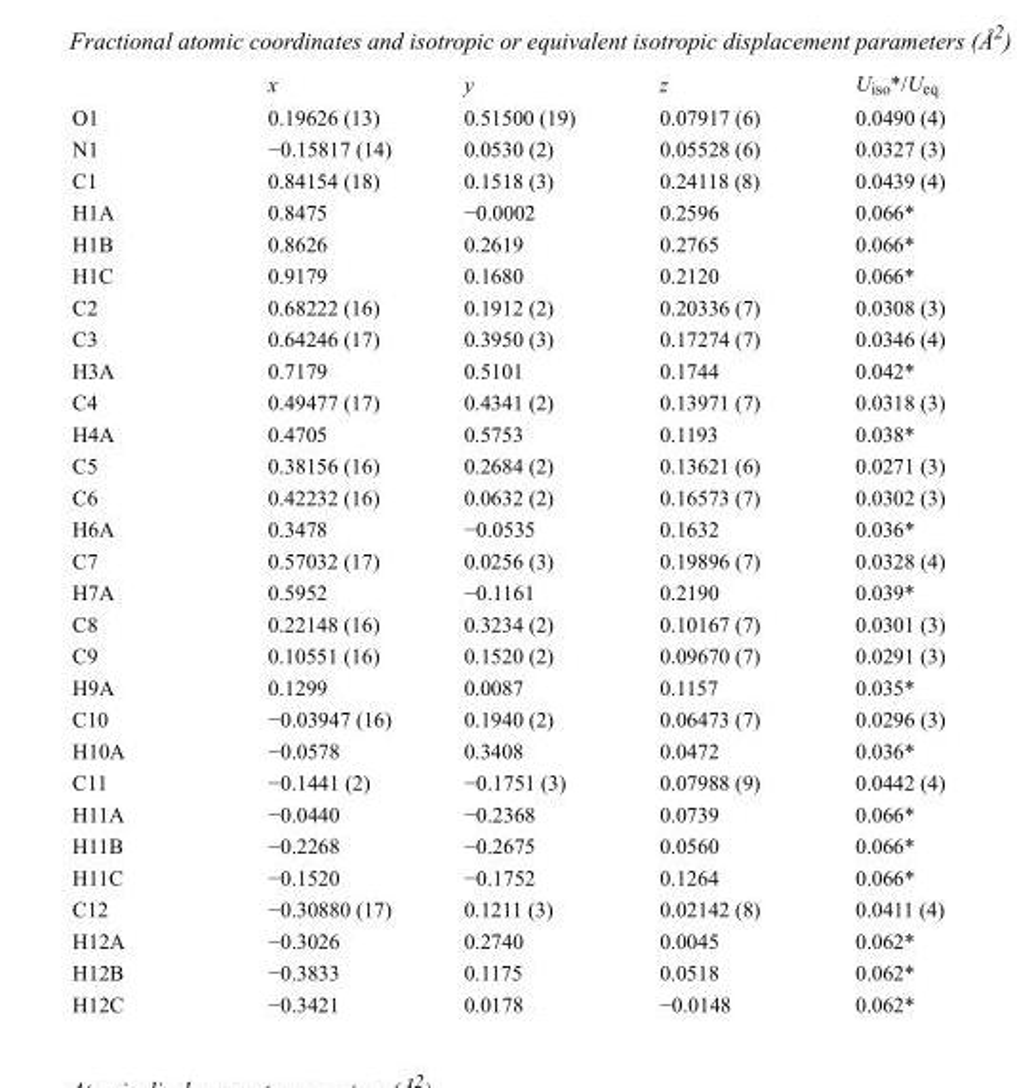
<table><thead><tr><td></td><td>x</td><td>y</td><td>z</td><td>U<sub>iso</sub>*/U<sub>eq</sub></td></tr></thead><tbody><tr><td>O1</td><td>0.19626 (13)</td><td>0.51500 (19)</td><td>0.07917 (6)</td><td>0.0490 (4)</td></tr><tr><td>N1</td><td>−0.15817 (14)</td><td>0.0530 (2)</td><td>0.05528 (6)</td><td>0.0327 (3)</td></tr><tr><td>C1</td><td>0.84154 (18)</td><td>0.1518 (3)</td><td>0.24118 (8)</td><td>0.0439 (4)</td></tr><tr><td>H1A</td><td>0.8475</td><td>−0.0002</td><td>0.2596</td><td>0.066*</td></tr><tr><td>H1B</td><td>0.8626</td><td>0.2619</td><td>0.2765</td><td>0.066*</td></tr><tr><td>H1C</td><td>0.9179</td><td>0.1680</td><td>0.2120</td><td>0.066*</td></tr><tr><td>C2</td><td>0.68222 (16)</td><td>0.1912 (2)</td><td>0.20336 (7)</td><td>0.0308 (3)</td></tr><tr><td>C3</td><td>0.64246 (17)</td><td>0.3950 (3)</td><td>0.17274 (7)</td><td>0.0346 (4)</td></tr><tr><td>H3A</td><td>0.7179</td><td>0.5101</td><td>0.1744</td><td>0.042*</td></tr><tr><td>C4</td><td>0.49477 (17)</td><td>0.4341 (2)</td><td>0.13971 (7)</td><td>0.0318 (3)</td></tr><tr><td>H4A</td><td>0.4705</td><td>0.5753</td><td>0.1193</td><td>0.038*</td></tr><tr><td>C5</td><td>0.38156 (16)</td><td>0.2684 (2)</td><td>0.13621 (6)</td><td>0.0271 (3)</td></tr><tr><td>C6</td><td>0.42232 (16)</td><td>0.0632 (2)</td><td>0.16573 (7)</td><td>0.0302 (3)</td></tr><tr><td>H6A</td><td>0.3478</td><td>−0.0535</td><td>0.1632</td><td>0.036*</td></tr><tr><td>C7</td><td>0.57032 (17)</td><td>0.0256 (3)</td><td>0.19896 (7)</td><td>0.0328 (4)</td></tr><tr><td>H7A</td><td>0.5952</td><td>−0.1161</td><td>0.2190</td><td>0.039*</td></tr><tr><td>C8</td><td>0.22148 (16)</td><td>0.3234 (2)</td><td>0.10167 (7)</td><td>0.0301 (3)</td></tr><tr><td>C9</td><td>0.10551 (16)</td><td>0.1520 (2)</td><td>0.09670 (7)</td><td>0.0291 (3)</td></tr><tr><td>H9A</td><td>0.1299</td><td>0.0087</td><td>0.1157</td><td>0.035*</td></tr><tr><td>C10</td><td>−0.03947 (16)</td><td>0.1940 (2)</td><td>0.06473 (7)</td><td>0.0296 (3)</td></tr><tr><td>H10A</td><td>−0.0578</td><td>0.3408</td><td>0.0472</td><td>0.036*</td></tr><tr><td>C11</td><td>−0.1441 (2)</td><td>−0.1751 (3)</td><td>0.07988 (9)</td><td>0.0442 (4)</td></tr><tr><td>H11A</td><td>−0.0440</td><td>−0.2368</td><td>0.0739</td><td>0.066*</td></tr><tr><td>H11B</td><td>−0.2268</td><td>−0.2675</td><td>0.0560</td><td>0.066*</td></tr><tr><td>H11C</td><td>−0.1520</td><td>−0.1752</td><td>0.1264</td><td>0.066*</td></tr><tr><td>C12</td><td>−0.30880 (17)</td><td>0.1211 (3)</td><td>0.02142 (8)</td><td>0.0411 (4)</td></tr><tr><td>H12A</td><td>−0.3026</td><td>0.2740</td><td>0.0045</td><td>0.062*</td></tr><tr><td>H12B</td><td>−0.3833</td><td>0.1175</td><td>0.0518</td><td>0.062*</td></tr><tr><td>H12C</td><td>−0.3421</td><td>0.0178</td><td>−0.0148</td><td>0.062*</td></tr></tbody></table>